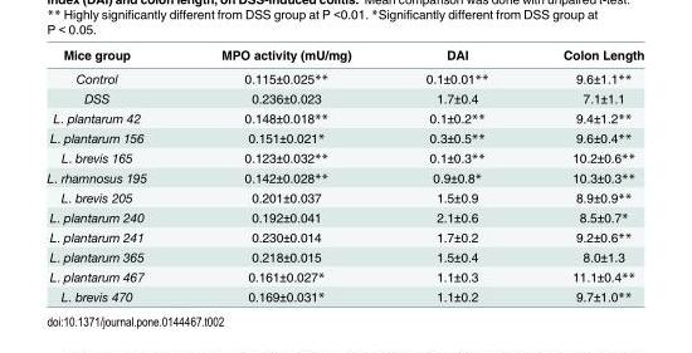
<table><thead><tr><td>Mice group</td><td>MPO activity (mU/mg)</td><td>DAI</td><td>Colon Length</td></tr></thead><tbody><tr><td>Control</td><td>0.115±0.025**</td><td>0.1±0.01**</td><td>9.6±1.1**</td></tr><tr><td>DSS</td><td>0.236±0.023</td><td>1.7±0.4</td><td>7.1±1.1</td></tr><tr><td>L. plantarum 42</td><td>0.148±0.018**</td><td>0.1±0.2**</td><td>9.4±1.2**</td></tr><tr><td>L. plantarum 156</td><td>0.151±0.021*</td><td>0.3±0.5**</td><td>9.6±0.4**</td></tr><tr><td>L. brevis 165</td><td>0.123±0.032**</td><td>0.1±0.3**</td><td>10.2±0.6**</td></tr><tr><td>L. rhamnosus 195</td><td>0.142±0.028**</td><td>0.9±0.8*</td><td>10.3±0.3**</td></tr><tr><td>L. brevis 205</td><td>0.201±0.037</td><td>1.5±0.9</td><td>8.9±0.9**</td></tr><tr><td>L. plantarum 240</td><td>0.192±0.041</td><td>2.1±0.6</td><td>8.5±0.7*</td></tr><tr><td>L. plantarum 241</td><td>0.230±0.014</td><td>1.7±0.2</td><td>9.2±0.6**</td></tr><tr><td>L. plantarum 365</td><td>0.218±0.015</td><td>1.5±0.4</td><td>8.0±1.3</td></tr><tr><td>L. plantarum 467</td><td>0.161±0.027*</td><td>1.1±0.3</td><td>11.1±0.4**</td></tr><tr><td>L. brevis 470</td><td>0.169±0.031*</td><td>1.1±0.2</td><td>9.7±1.0**</td></tr></tbody></table>